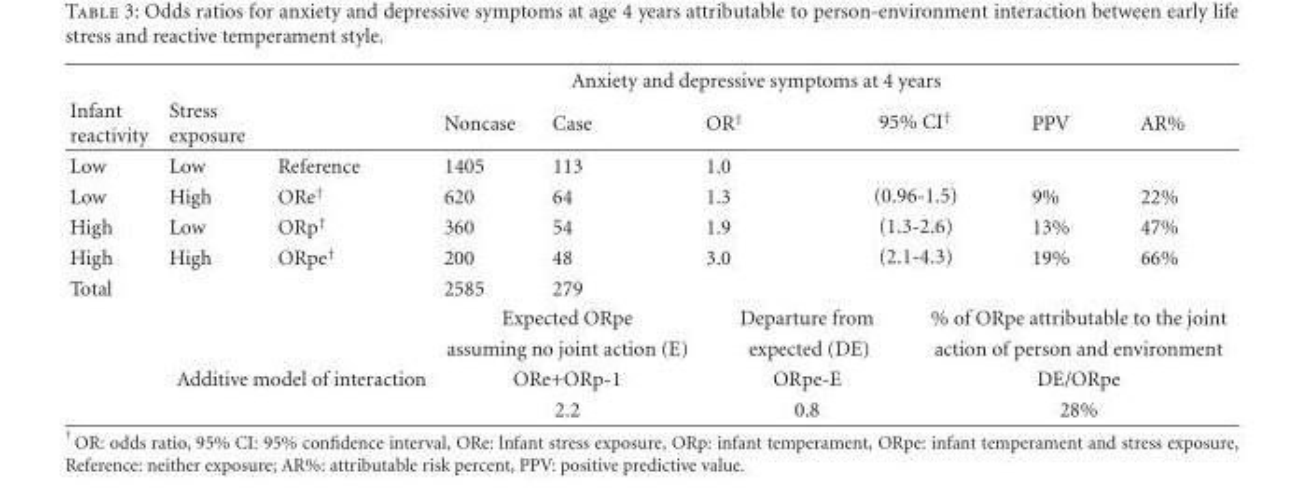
<table><thead><tr><td rowspan="3">Infant reactivity Low</td><td rowspan="3">Stress exposure Low</td><td colspan="8">Anxiety and depressive symptoms at 4 years</td></tr><tr><td rowspan="2">Reference</td><td rowspan="2">Noncase 1405</td><td rowspan="2">Case 113</td><td rowspan="2">OR<sup>†</sup> 1.0</td><td colspan="2">95% CI<sup>†</sup></td><td rowspan="2">PPV</td><td rowspan="2">AR%</td></tr><tr><td></td><td></td></tr></thead><tbody><tr><td>Low</td><td>High</td><td>ORe<sup>†</sup></td><td>620</td><td>64</td><td>1.3</td><td colspan="2">(0.96-1.5)</td><td>9%</td><td>22%</td></tr><tr><td>High</td><td>Low</td><td>ORp<sup>†</sup></td><td>360</td><td>54</td><td>1.9</td><td colspan="2">(1.3-2.6)</td><td>13%</td><td>47%</td></tr><tr><td>High</td><td>High</td><td>ORpe<sup>†</sup></td><td>200</td><td>48</td><td>3.0</td><td colspan="2">(2.1-4.3)</td><td>19%</td><td>66%</td></tr><tr><td rowspan="5">Total</td><td></td><td></td><td>2585</td><td>279</td><td></td><td></td><td></td><td></td><td></td></tr><tr><td></td><td></td><td colspan="2">Expected ORpe</td><td colspan="2">Departure from</td><td colspan="3">% of ORpe attributable to the joint</td></tr><tr><td></td><td></td><td colspan="2">assuming no joint action (E)</td><td colspan="2">expected (DE)</td><td colspan="3">action of person and environment</td></tr><tr><td colspan="2">Additive model of interaction</td><td colspan="2">ORe+ORp-1</td><td colspan="2">ORpe-E</td><td colspan="3">DE/ORpe</td></tr><tr><td></td><td></td><td colspan="2">2.2</td><td colspan="2">0.8</td><td colspan="3">28%</td></tr></tbody></table>